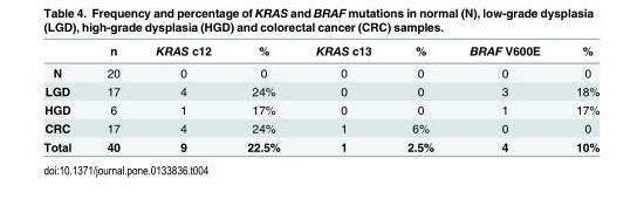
<table><thead><tr><td></td><td>n</td><td>KRAS c12</td><td>%</td><td>KRAS c13</td><td>%</td><td>BRAF V600E</td><td>%</td></tr></thead><tbody><tr><td>N</td><td>20</td><td>0</td><td>0</td><td>0</td><td>0</td><td>0</td><td>0</td></tr><tr><td>LGD</td><td>17</td><td>4</td><td>24%</td><td>0</td><td>0</td><td>3</td><td>18%</td></tr><tr><td>HGD</td><td>6</td><td>1</td><td>17%</td><td>0</td><td>0</td><td>1</td><td>17%</td></tr><tr><td>CRC</td><td>17</td><td>4</td><td>24%</td><td>1</td><td>6%</td><td>0</td><td>0</td></tr><tr><td>Total</td><td>40</td><td>9</td><td>22.5%</td><td>1</td><td>2.5%</td><td>4</td><td>10%</td></tr></tbody></table>